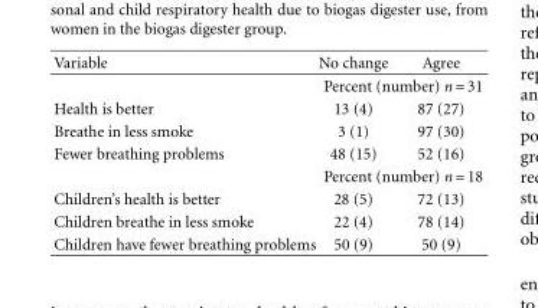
<table><thead><tr><td>Variable</td><td>No change</td><td>Agree</td></tr></thead><tbody><tr><td></td><td colspan="2">Percent (number) n = 31</td></tr><tr><td>Health is better</td><td>13 (4)</td><td>87 (27)</td></tr><tr><td>Breathe in less smoke</td><td>3 (1)</td><td>97 (30)</td></tr><tr><td rowspan="2">Fewer breathing problems</td><td>48 (15)</td><td>52 (16)</td></tr><tr><td colspan="2">Percent (number) n = 18</td></tr><tr><td>Children’s health is better</td><td>28 (5)</td><td>72 (13)</td></tr><tr><td>Children breathe in less smoke</td><td>22 (4)</td><td>78 (14)</td></tr><tr><td>Children have fewer breathing problems</td><td>50 (9)</td><td>50 (9)</td></tr></tbody></table>